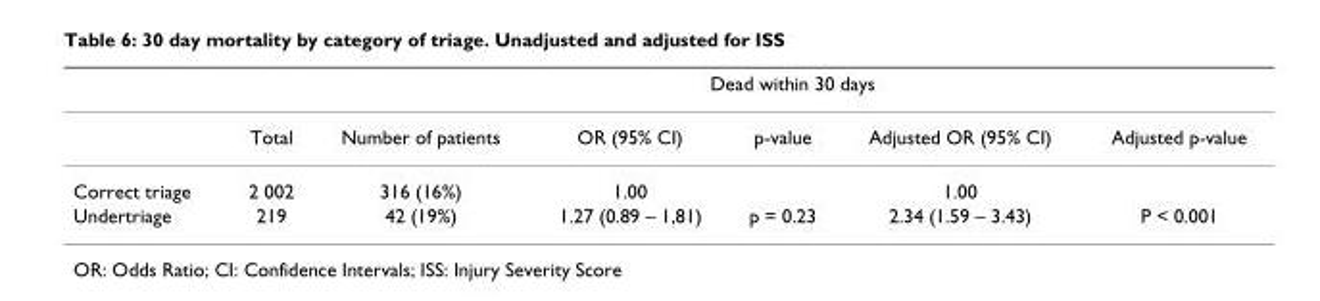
<table><thead><tr><td rowspan="2"></td><td rowspan="2">Total</td><td colspan="5">Dead within 30 days</td></tr><tr><td>Number of patients</td><td>OR (95% CI)</td><td>p-value</td><td>Adjusted OR (95% CI)</td><td>Adjusted p-value</td></tr></thead><tbody><tr><td>Correct triage</td><td>2 002</td><td>316 (16%)</td><td>1.00</td><td></td><td>1.00</td><td></td></tr><tr><td>Undertriage</td><td>219</td><td>42 (19%)</td><td>1.27 (0.89 – 1,81)</td><td>p = 0.23</td><td>2.34 (1.59 – 3.43)</td><td>P &lt; 0.001</td></tr></tbody></table>